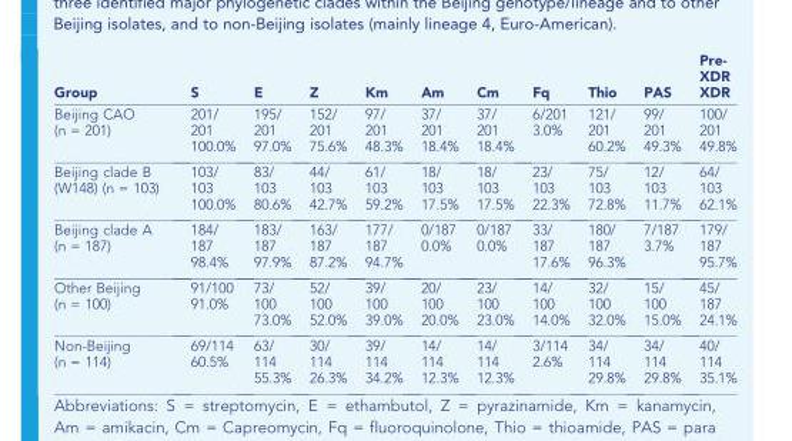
<table><thead><tr><td>Group</td><td>S</td><td>E</td><td>Z</td><td>Km</td><td>Am</td><td>Cm</td><td>Fq</td><td>Thio</td><td>PAS</td><td>Pre- XDR XDR</td></tr></thead><tbody><tr><td>Beijing CAO (n = 201)</td><td>201/ 201 100.0%</td><td>195/ 201 97.0%</td><td>152/ 201 75.6%</td><td>97/ 201 48.3%</td><td>37/ 201 18.4%</td><td>37/ 201 18.4%</td><td>6/201 3.0%</td><td>121/ 201 60.2%</td><td>99/ 201 49.3%</td><td>100/ 201 49.8%</td></tr><tr><td>Beijing clade B (W148) (n = 103)</td><td>103/ 103 100.0%</td><td>83/ 103 80.6%</td><td>44/ 103 42.7%</td><td>61/ 103 59.2%</td><td>18/ 103 17.5%</td><td>18/ 103 17.5%</td><td>23/ 103 22.3%</td><td>75/ 103 72.8%</td><td>12/ 103 11.7%</td><td>64/ 103 62.1%</td></tr><tr><td>Beijing clade A (n = 187)</td><td>184/ 187 98.4%</td><td>183/ 187 97.9%</td><td>163/ 187 87.2%</td><td>177/ 187 94.7%</td><td>0/187 0.0%</td><td>0/187 0.0%</td><td>33/ 187 17.6%</td><td>180/ 187 96.3%</td><td>7/187 3.7%</td><td>179/ 187 95.7%</td></tr><tr><td>Other Beijing (n = 100)</td><td>91/100 91.0%</td><td>73/ 100 73.0%</td><td>52/ 100 52.0%</td><td>39/ 100 39.0%</td><td>20/ 100 20.0%</td><td>23/ 100 23.0%</td><td>14/ 100 14.0%</td><td>32/ 100 32.0%</td><td>15/ 100 15.0%</td><td>45/ 187 24.1%</td></tr><tr><td>Non-Beijing (n = 114)</td><td>69/114 60.5%</td><td>63/ 114 55.3%</td><td>30/ 114 26.3%</td><td>39/ 114 34.2%</td><td>14/ 114 12.3%</td><td>14/ 114 12.3%</td><td>3/114 2.6%</td><td>34/ 114 29.8%</td><td>34/ 114 29.8%</td><td>40/ 114 35.1%</td></tr></tbody></table>